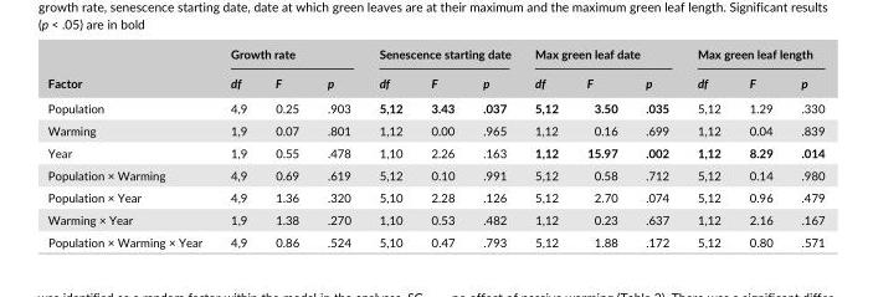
<table><thead><tr><td rowspan="2">Factor</td><td colspan="3">Growth rate</td><td colspan="3">Senescence starting date</td><td colspan="3">Max green leaf date</td><td colspan="3">Max green leaf length</td></tr><tr><td>df</td><td>F</td><td>p</td><td>df</td><td>F</td><td>p</td><td>df</td><td>F</td><td>p</td><td>df</td><td>F</td><td>p</td></tr></thead><tbody><tr><td>Population</td><td>4,9</td><td>0.25</td><td>.903</td><td>5,12</td><td>3.43</td><td>.037</td><td>5,12</td><td>3.50</td><td>.035</td><td>5,12</td><td>1.29</td><td>.330</td></tr><tr><td>Warming</td><td>1,9</td><td>0.07</td><td>.801</td><td>1,12</td><td>0.00</td><td>.965</td><td>1,12</td><td>0.16</td><td>.699</td><td>1,12</td><td>0.04</td><td>.839</td></tr><tr><td>Year</td><td>1,9</td><td>0.55</td><td>.478</td><td>1,10</td><td>2.26</td><td>.163</td><td>1,12</td><td>15.97</td><td>.002</td><td>1,12</td><td>8.29</td><td>.014</td></tr><tr><td>Population × Warming</td><td>4,9</td><td>0.69</td><td>.619</td><td>5,12</td><td>0.10</td><td>.991</td><td>5,12</td><td>0.58</td><td>.712</td><td>5,12</td><td>0.14</td><td>.980</td></tr><tr><td>Population × Year</td><td>4,9</td><td>1.36</td><td>.320</td><td>5,10</td><td>2.28</td><td>.126</td><td>5,12</td><td>2.70</td><td>.074</td><td>5,12</td><td>0.96</td><td>.479</td></tr><tr><td>Warming × Year</td><td>1,9</td><td>1.38</td><td>.270</td><td>1,10</td><td>0.53</td><td>.482</td><td>1,12</td><td>0.23</td><td>.637</td><td>1,12</td><td>2.16</td><td>.167</td></tr><tr><td>Population × Warming × Year</td><td>4,9</td><td>0.86</td><td>.524</td><td>5,10</td><td>0.47</td><td>.793</td><td>5,12</td><td>1.88</td><td>.172</td><td>5,12</td><td>0.80</td><td>.571</td></tr></tbody></table>